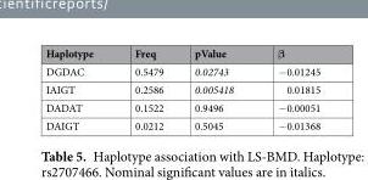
<table><thead><tr><td>Haplotype</td><td>Freq</td><td>pValue</td><td>β</td></tr></thead><tbody><tr><td>DGDAC</td><td>0.5479</td><td>0.02743</td><td>−0.01245</td></tr><tr><td>IAIGT</td><td>0.2586</td><td>0.005418</td><td>0.01815</td></tr><tr><td>DADAT</td><td>0.1522</td><td>0.9496</td><td>−0.00051</td></tr><tr><td>DAIGT</td><td>0.0212</td><td>0.5045</td><td>−0.01368</td></tr></tbody></table>